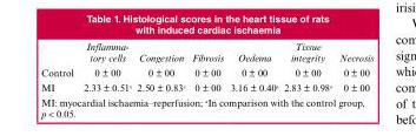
<table><thead><tr><td></td><td>Inflamma- tory cells</td><td>Congestion</td><td>Fibrosis</td><td>Oedema</td><td>Tissue integrity</td><td>Necrosis</td></tr></thead><tbody><tr><td>Control</td><td>0 ± 00</td><td>0 ± 00</td><td>0 ± 00</td><td>0 ± 00</td><td>0 ± 00</td><td>0 ± 00</td></tr><tr><td>MI</td><td>2.33 ± 0.51<sup>a</sup></td><td>2.50 ± 0.83<sup>a</sup></td><td>0 ± 00</td><td>3.16 ± 0.40<sup>a</sup></td><td>2.83 ± 0.98<sup>a</sup></td><td>0 ± 00</td></tr></tbody></table>